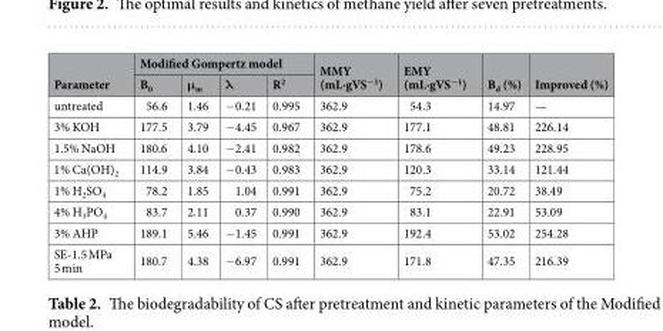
<table><thead><tr><td rowspan="2">Parameter</td><td colspan="4">Modified Gompertz model</td><td rowspan="2">MMY (mL·gVS<sup>−1</sup>)</td><td rowspan="2">EMY (mL·gVS<sup>−1</sup>)</td><td rowspan="2">B<sub>d</sub> (%)</td><td rowspan="2">Improved (%)</td></tr><tr><td>B<sub>0</sub></td><td>μ<sub>m</sub></td><td>λ</td><td>R<sup>2</sup></td></tr></thead><tbody><tr><td>untreated</td><td>56.6</td><td>1.46</td><td>−0.21</td><td>0.995</td><td>362.9</td><td>54.3</td><td>14.97</td><td>—</td></tr><tr><td>3% KOH</td><td>177.5</td><td>3.79</td><td>−4.45</td><td>0.967</td><td>362.9</td><td>177.1</td><td>48.81</td><td>226.14</td></tr><tr><td>1.5% NaOH</td><td>180.6</td><td>4.10</td><td>−2.41</td><td>0.982</td><td>362.9</td><td>178.6</td><td>49.23</td><td>228.95</td></tr><tr><td>1% Ca(OH)<sub>2</sub></td><td>114.9</td><td>3.84</td><td>−0.43</td><td>0.983</td><td>362.9</td><td>120.3</td><td>33.14</td><td>121.44</td></tr><tr><td>1% H<sub>2</sub>SO<sub>4</sub></td><td>78.2</td><td>1.85</td><td>1.04</td><td>0.991</td><td>362.9</td><td>75.2</td><td>20.72</td><td>38.49</td></tr><tr><td>4% H<sub>3</sub>PO<sub>4</sub></td><td>83.7</td><td>2.11</td><td>0.37</td><td>0.990</td><td>362.9</td><td>83.1</td><td>22.91</td><td>53.09</td></tr><tr><td>3% AHP</td><td>189.1</td><td>5.46</td><td>−1.45</td><td>0.991</td><td>362.9</td><td>192.4</td><td>53.02</td><td>254.28</td></tr><tr><td>SE-1.5 MPa 5 min</td><td>180.7</td><td>4.38</td><td>−6.97</td><td>0.991</td><td>362.9</td><td>171.8</td><td>47.35</td><td>216.39</td></tr></tbody></table>